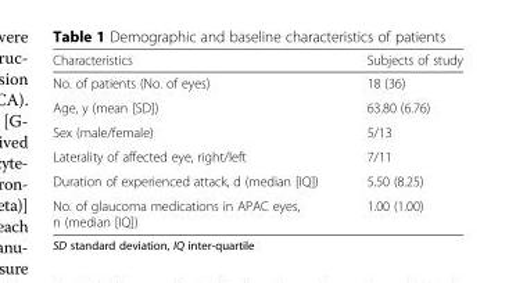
<table><thead><tr><td>Characteristics</td><td>Subjects of study</td></tr></thead><tbody><tr><td>No. of patients (No. of eyes)</td><td>18 (36)</td></tr><tr><td>Age, y (mean [SD])</td><td>63.80 (6.76)</td></tr><tr><td>Sex (male/female)</td><td>5/13</td></tr><tr><td>Laterality of affected eye, right/left</td><td>7/11</td></tr><tr><td>Duration of experienced attack, d (median [IQ])</td><td>5.50 (8.25)</td></tr><tr><td>No. of glaucoma medications in APAC eyes, n (median [IQ])</td><td>1.00 (1.00)</td></tr></tbody></table>